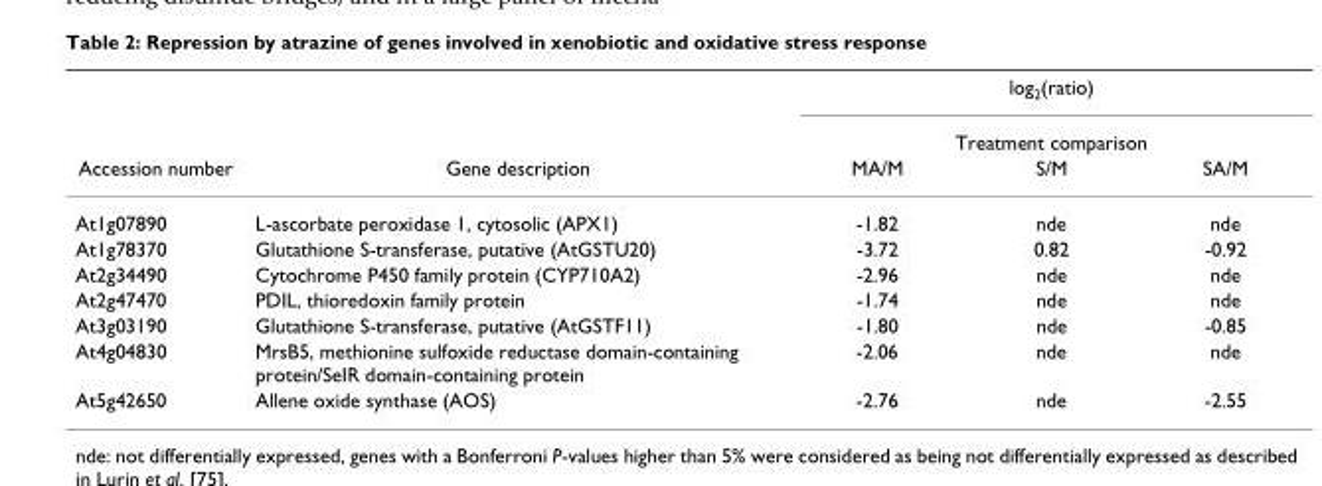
<table><thead><tr><td rowspan="3">Accession number</td><td rowspan="3">Gene description</td><td rowspan="2" colspan="3">log<sub>2</sub>(ratio) Treatment comparison</td></tr><tr></tr><tr><td>MA/M</td><td>S/M</td><td>SA/M</td></tr></thead><tbody><tr><td>At1g07890</td><td>L-ascorbate peroxidase 1, cytosolic (APX1)</td><td>-1.82</td><td>nde</td><td>nde</td></tr><tr><td>At1g78370</td><td>Glutathione S-transferase, putative (AtGSTU20)</td><td>-3.72</td><td>0.82</td><td>-0.92</td></tr><tr><td>At2g34490</td><td>Cytochrome P450 family protein (CYP710A2)</td><td>-2.96</td><td>nde</td><td>nde</td></tr><tr><td>At2g47470</td><td>PDIL, thioredoxin family protein</td><td>-1.74</td><td>nde</td><td>nde</td></tr><tr><td>At3g03190</td><td>Glutathione S-transferase, putative (AtGSTF11)</td><td>-1.80</td><td>nde</td><td>-0.85</td></tr><tr><td>At4g04830</td><td>MrsB5, methionine sulfoxide reductase domain-containing protein/SeIR domain-containing protein</td><td>-2.06</td><td>nde</td><td>nde</td></tr><tr><td>At5g42650</td><td>Allene oxide synthase (AOS)</td><td>-2.76</td><td>nde</td><td>-2.55</td></tr></tbody></table>